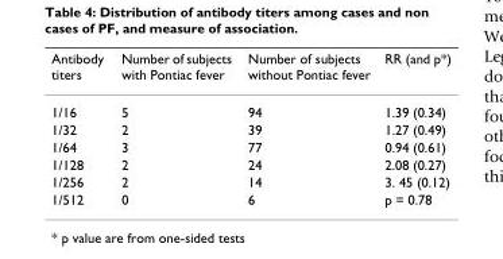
<table><thead><tr><td>Antibody titers</td><td>Number of subjects with Pontiac fever</td><td>Number of subjects without Pontiac fever</td><td>RR (and p*)</td></tr></thead><tbody><tr><td>1/16</td><td>5</td><td>94</td><td>1.39 (0.34)</td></tr><tr><td>1/32</td><td>2</td><td>39</td><td>1.27 (0.49)</td></tr><tr><td>1/64</td><td>3</td><td>77</td><td>0.94 (0.61)</td></tr><tr><td>1/128</td><td>2</td><td>24</td><td>2.08 (0.27)</td></tr><tr><td>1/256</td><td>2</td><td>14</td><td>3. 45 (0.12)</td></tr><tr><td>1/512</td><td>0</td><td>6</td><td>p = 0.78</td></tr></tbody></table>